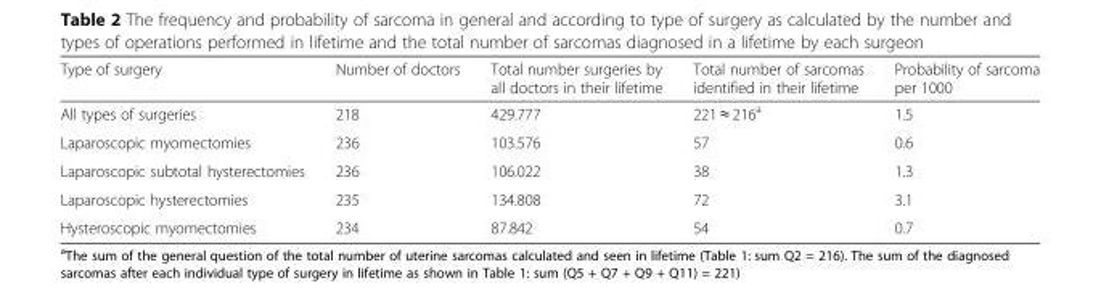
<table><thead><tr><td>Type of surgery</td><td>Number of doctors</td><td>Total number surgeries by all doctors in their lifetime</td><td>Total number of sarcomas identified in their lifetime</td><td>Probability of sarcoma per 1000</td></tr></thead><tbody><tr><td>All types of surgeries</td><td>218</td><td>429.777</td><td>221 ≈ 216<sup>a</sup></td><td>1.5</td></tr><tr><td>Laparoscopic myomectomies</td><td>236</td><td>103.576</td><td>57</td><td>0.6</td></tr><tr><td>Laparoscopic subtotal hysterectomies</td><td>236</td><td>106.022</td><td>38</td><td>1.3</td></tr><tr><td>Laparoscopic hysterectomies</td><td>235</td><td>134.808</td><td>72</td><td>3.1</td></tr><tr><td>Hysteroscopic myomectomies</td><td>234</td><td>87.842</td><td>54</td><td>0.7</td></tr></tbody></table>